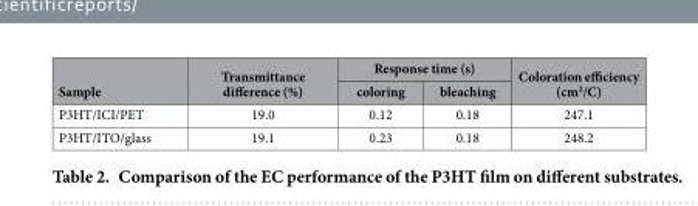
<table><thead><tr><td rowspan="2">Sample</td><td rowspan="2">Transmittance difference (%)</td><td colspan="2">Response time (s)</td><td rowspan="2">Coloration efficiency (cm<sup>2</sup>/C)</td></tr><tr><td>coloring</td><td>bleaching</td></tr></thead><tbody><tr><td>P3HT/ICI/PET</td><td>19.0</td><td>0.12</td><td>0.18</td><td>247.1</td></tr><tr><td>P3HT/ITO/glass</td><td>19.1</td><td>0.23</td><td>0.18</td><td>248.2</td></tr></tbody></table>